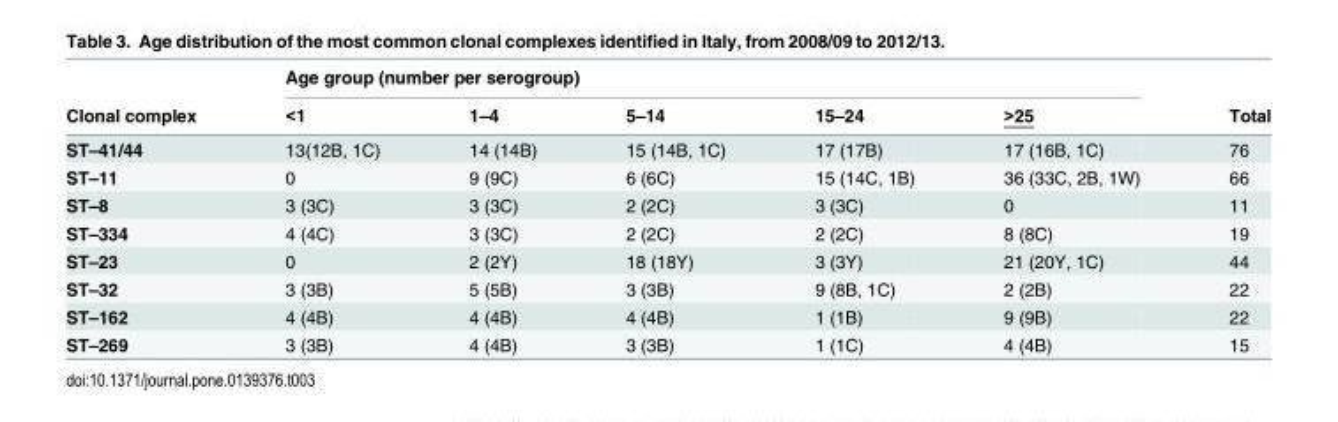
<table><thead><tr><td rowspan="2">Clonal complex</td><td colspan="5">Age group (number per serogroup)</td><td rowspan="2">Total</td></tr><tr><td>&lt;1</td><td>1–4</td><td>5–14</td><td>15–24</td><td>&gt;25</td></tr></thead><tbody><tr><td>ST–41/44</td><td>13(12B, 1C)</td><td>14 (14B)</td><td>15 (14B, 1C)</td><td>17 (17B)</td><td>17 (16B, 1C)</td><td>76</td></tr><tr><td>ST–11</td><td>0</td><td>9 (9C)</td><td>6 (6C)</td><td>15 (14C, 1B)</td><td>36 (33C, 2B, 1W)</td><td>66</td></tr><tr><td>ST–8</td><td>3 (3C)</td><td>3 (3C)</td><td>2 (2C)</td><td>3 (3C)</td><td>0</td><td>11</td></tr><tr><td>ST–334</td><td>4 (4C)</td><td>3 (3C)</td><td>2 (2C)</td><td>2 (2C)</td><td>8 (8C)</td><td>19</td></tr><tr><td>ST–23</td><td>0</td><td>2 (2Y)</td><td>18 (18Y)</td><td>3 (3Y)</td><td>21 (20Y, 1C)</td><td>44</td></tr><tr><td>ST–32</td><td>3 (3B)</td><td>5 (5B)</td><td>3 (3B)</td><td>9 (8B, 1C)</td><td>2 (2B)</td><td>22</td></tr><tr><td>ST–162</td><td>4 (4B)</td><td>4 (4B)</td><td>4 (4B)</td><td>1 (1B)</td><td>9 (9B)</td><td>22</td></tr><tr><td>ST–269</td><td>3 (3B)</td><td>4 (4B)</td><td>3 (3B)</td><td>1 (1C)</td><td>4 (4B)</td><td>15</td></tr></tbody></table>